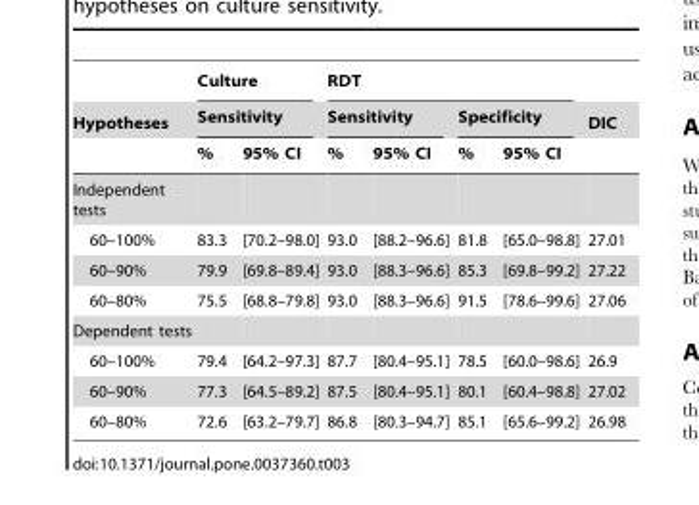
<table><thead><tr><td rowspan="3">Hypotheses</td><td rowspan="2" colspan="2">Culture Sensitivity</td><td colspan="4">RDT</td><td rowspan="3">DIC</td></tr><tr><td colspan="2">Sensitivity</td><td colspan="2">Specificity</td></tr><tr><td>%</td><td>95% CI</td><td>%</td><td>95% CI</td><td>%</td><td>95% CI</td></tr></thead><tbody><tr><td colspan="8">Independent tests</td></tr><tr><td>60–100%</td><td>83.3</td><td>[70.2–98.0]</td><td>93.0</td><td>[88.2–96.6]</td><td>81.8</td><td>[65.0–98.8]</td><td>27.01</td></tr><tr><td>60–90%</td><td>79.9</td><td>[69.8–89.4]</td><td>93.0</td><td>[88.3–96.6]</td><td>85.3</td><td>[69.8–99.2]</td><td>27.22</td></tr><tr><td>60–80%</td><td>75.5</td><td>[68.8–79.8]</td><td>93.0</td><td>[88.3–96.6]</td><td>91.5</td><td>[78.6–99.6]</td><td>27.06</td></tr><tr><td colspan="8">Dependent tests</td></tr><tr><td>60–100%</td><td>79.4</td><td>[64.2–97.3]</td><td>87.7</td><td>[80.4–95.1]</td><td>78.5</td><td>[60.0–98.6]</td><td>26.9</td></tr><tr><td>60–90%</td><td>77.3</td><td>[64.5–89.2]</td><td>87.5</td><td>[80.4–95.1]</td><td>80.1</td><td>[60.4–98.8]</td><td>27.02</td></tr><tr><td>60–80%</td><td>72.6</td><td>[63.2–79.7]</td><td>86.8</td><td>[80.3–94.7]</td><td>85.1</td><td>[65.6–99.2]</td><td>26.98</td></tr></tbody></table>